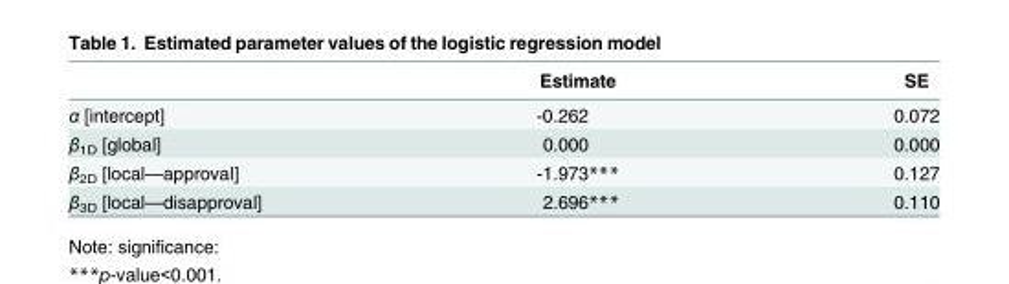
<table><thead><tr><td></td><td>Estimate</td><td>SE</td></tr></thead><tbody><tr><td>α [intercept]</td><td>-0.262</td><td>0.072</td></tr><tr><td>β<sub>1D</sub> [global]</td><td>0.000</td><td>0.000</td></tr><tr><td>β<sub>2D</sub> [local—approval]</td><td>-1.973***</td><td>0.127</td></tr><tr><td>β<sub>3D</sub> [local—disapproval]</td><td>2.696***</td><td>0.110</td></tr></tbody></table>